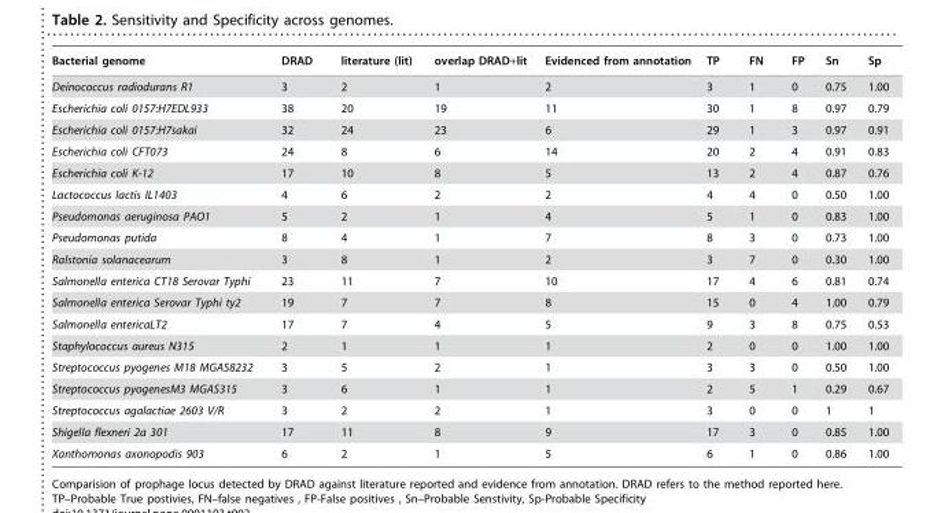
<table><thead><tr><td>Bacterial genome</td><td>DRAD</td><td>literature (lit)</td><td>overlap DRAD+lit</td><td>Evidenced from annotation</td><td>TP</td><td>FN</td><td>FP</td><td>Sn</td><td>Sp</td></tr></thead><tbody><tr><td>Deinococcus radiodurans R1</td><td>3</td><td>2</td><td>1</td><td>2</td><td>3</td><td>1</td><td>0</td><td>0.75</td><td>1.00</td></tr><tr><td>Escherichia coli 0157:H7EDL933</td><td>38</td><td>20</td><td>19</td><td>11</td><td>30</td><td>1</td><td>8</td><td>0.97</td><td>0.79</td></tr><tr><td>Escherichia coli 0157:H7sakai</td><td>32</td><td>24</td><td>23</td><td>6</td><td>29</td><td>1</td><td>3</td><td>0.97</td><td>0.91</td></tr><tr><td>Escherichia coli CFT073</td><td>24</td><td>8</td><td>6</td><td>14</td><td>20</td><td>2</td><td>4</td><td>0.91</td><td>0.83</td></tr><tr><td>Escherichia coli K-12</td><td>17</td><td>10</td><td>8</td><td>5</td><td>13</td><td>2</td><td>4</td><td>0.87</td><td>0.76</td></tr><tr><td>Lactococcus lactis IL1403</td><td>4</td><td>6</td><td>2</td><td>2</td><td>4</td><td>4</td><td>0</td><td>0.50</td><td>1.00</td></tr><tr><td>Pseudomonas aeruginosa PAO1</td><td>5</td><td>2</td><td>1</td><td>4</td><td>5</td><td>1</td><td>0</td><td>0.83</td><td>1.00</td></tr><tr><td>Pseudomonas putida</td><td>8</td><td>4</td><td>1</td><td>7</td><td>8</td><td>3</td><td>0</td><td>0.73</td><td>1.00</td></tr><tr><td>Ralstonia solanacearum</td><td>3</td><td>8</td><td>1</td><td>2</td><td>3</td><td>7</td><td>0</td><td>0.30</td><td>1.00</td></tr><tr><td>Salmonella enterica CT18 Serovar Typhi</td><td>23</td><td>11</td><td>7</td><td>10</td><td>17</td><td>4</td><td>6</td><td>0.81</td><td>0.74</td></tr><tr><td>Salmonella enterica Serovar Typhi ty2</td><td>19</td><td>7</td><td>7</td><td>8</td><td>15</td><td>0</td><td>4</td><td>1.00</td><td>0.79</td></tr><tr><td>Salmonella entericaLT2</td><td>17</td><td>7</td><td>4</td><td>5</td><td>9</td><td>3</td><td>8</td><td>0.75</td><td>0.53</td></tr><tr><td>Staphylococcus aureus N315</td><td>2</td><td>1</td><td>1</td><td>1</td><td>2</td><td>0</td><td>0</td><td>1.00</td><td>1.00</td></tr><tr><td>Streptococcus pyogenes M18 MGAS8232</td><td>3</td><td>5</td><td>2</td><td>1</td><td>3</td><td>3</td><td>0</td><td>0.50</td><td>1.00</td></tr><tr><td>Streptococcus pyogenesM3 MGAS315</td><td>3</td><td>6</td><td>1</td><td>1</td><td>2</td><td>5</td><td>1</td><td>0.29</td><td>0.67</td></tr><tr><td>Streptococcus agalactiae 2603 V/R</td><td>3</td><td>2</td><td>2</td><td>1</td><td>3</td><td>0</td><td>0</td><td>1</td><td>1</td></tr><tr><td>Shigella flexneri 2a 301</td><td>17</td><td>11</td><td>8</td><td>9</td><td>17</td><td>3</td><td>0</td><td>0.85</td><td>1.00</td></tr><tr><td>Xanthomonas axonopodis 903</td><td>6</td><td>2</td><td>1</td><td>5</td><td>6</td><td>1</td><td>0</td><td>0.86</td><td>1.00</td></tr></tbody></table>